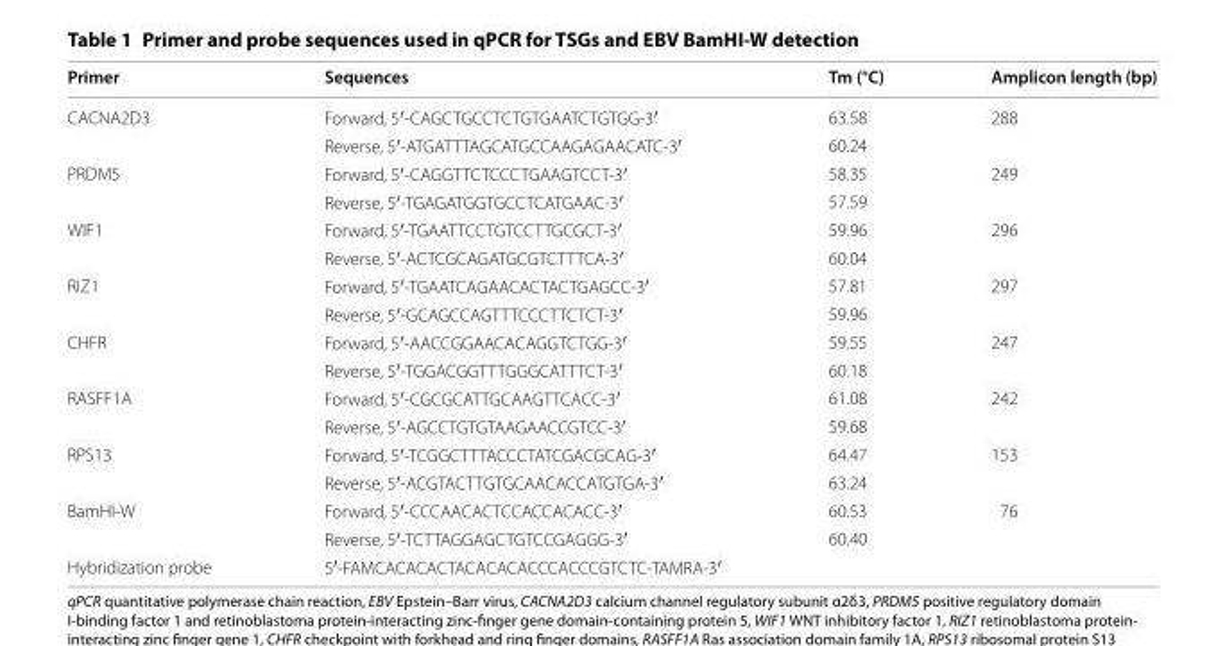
<table><thead><tr><td>Primer</td><td>Sequences</td><td>Tm (°C)</td><td>Amplicon length (bp)</td></tr></thead><tbody><tr><td rowspan="2">CACNA2D3</td><td>Forward, 5′‑CAGCTGCCTCTGTGAATCTGTGG‑3′</td><td>63.58</td><td rowspan="2">288</td></tr><tr><td>Reverse, 5′‑ATGATTTAGCATGCCAAGAGAACATC‑3′</td><td>60.24</td></tr><tr><td rowspan="2">PRDM5</td><td>Forward, 5′‑CAGGTTCTCCCTGAAGTCCT‑3′</td><td>58.35</td><td rowspan="2">249</td></tr><tr><td>Reverse, 5′‑TGAGATGGTGCCTCATGAAC‑3′</td><td>57.59</td></tr><tr><td rowspan="2">WIF1</td><td>Forward, 5′‑TGAATTCCTGTCCTTGCGCT‑3′</td><td>59.96</td><td rowspan="2">296</td></tr><tr><td>Reverse, 5′‑ACTCGCAGATGCGTCTTTCA‑3′</td><td>60.04</td></tr><tr><td rowspan="2">RIZ1</td><td>Forward, 5′‑TGAATCAGAACACTACTGAGCC‑3′</td><td>57.81</td><td rowspan="2">297</td></tr><tr><td>Reverse, 5′‑GCAGCCAGTTTCCCTTCTCT‑3′</td><td>59.96</td></tr><tr><td rowspan="2">CHFR</td><td>Forward, 5′‑AACCGGAACACAGGTCTGG‑3′</td><td>59.55</td><td rowspan="2">247</td></tr><tr><td>Reverse, 5′‑TGGACGGTTTGGGCATTTCT‑3′</td><td>60.18</td></tr><tr><td rowspan="2">RASFF1A</td><td>Forward, 5′‑CGCGCATTGCAAGTTCACC‑3′</td><td>61.08</td><td rowspan="2">242</td></tr><tr><td>Reverse, 5′‑AGCCTGTGTAAGAACCGTCC‑3′</td><td>59.68</td></tr><tr><td rowspan="2">RPS13</td><td>Forward, 5′‑TCGGCTTTACCCTATCGACGCAG‑3′</td><td>64.47</td><td rowspan="2">153</td></tr><tr><td>Reverse, 5′‑ACGTACTTGTGCAACACCATGTGA‑3′</td><td>63.24</td></tr><tr><td rowspan="2">BamHI‑W</td><td>Forward, 5′‑CCCAACACTCCACCACACC‑3′</td><td>60.53</td><td rowspan="2">76</td></tr><tr><td>Reverse, 5′‑TCTTAGGAGCTGTCCGAGGG‑3′</td><td>60.40</td></tr><tr><td>Hybridization probe</td><td>5′‑FAMCACACACTACACACACCCACCCGTCTC‑TAMRA‑3′</td><td></td><td></td></tr></tbody></table>